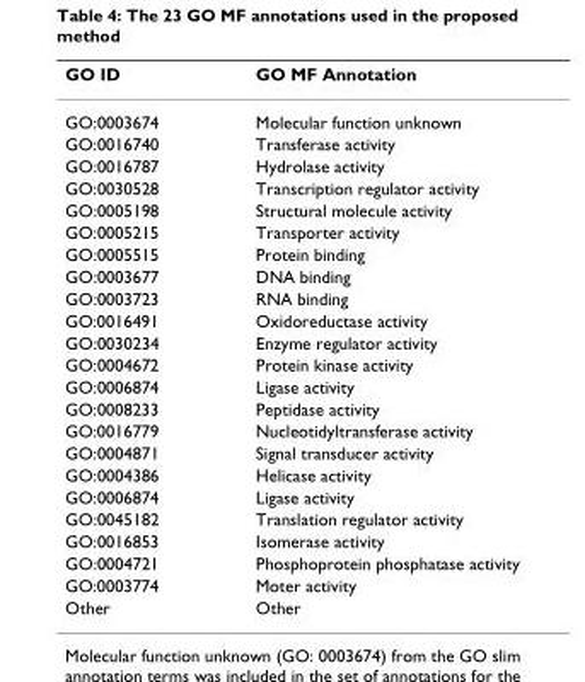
<table><thead><tr><td>GO ID</td><td>GO MF Annotation</td></tr></thead><tbody><tr><td>GO:0003674</td><td>Molecular function unknown</td></tr><tr><td>GO:0016740</td><td>Transferase activity</td></tr><tr><td>GO:0016787</td><td>Hydrolase activity</td></tr><tr><td>GO:0030528</td><td>Transcription regulator activity</td></tr><tr><td>GO:0005198</td><td>Structural molecule activity</td></tr><tr><td>GO:0005215</td><td>Transporter activity</td></tr><tr><td>GO:0005515</td><td>Protein binding</td></tr><tr><td>GO:0003677</td><td>DNA binding</td></tr><tr><td>GO:0003723</td><td>RNA binding</td></tr><tr><td>GO:0016491</td><td>Oxidoreductase activity</td></tr><tr><td>GO:0030234</td><td>Enzyme regulator activity</td></tr><tr><td>GO:0004672</td><td>Protein kinase activity</td></tr><tr><td>GO:0006874</td><td>Ligase activity</td></tr><tr><td>GO:0008233</td><td>Peptidase activity</td></tr><tr><td>GO:0016779</td><td>Nucleotidyltransferase activity</td></tr><tr><td>GO:0004871</td><td>Signal transducer activity</td></tr><tr><td>GO:0004386</td><td>Helicase activity</td></tr><tr><td>GO:0006874</td><td>Ligase activity</td></tr><tr><td>GO:0045182</td><td>Translation regulator activity</td></tr><tr><td>GO:0016853</td><td>Isomerase activity</td></tr><tr><td>GO:0004721</td><td>Phosphoprotein phosphatase activity</td></tr><tr><td>GO:0003774</td><td>Moter activity</td></tr><tr><td>Other</td><td>Other</td></tr></tbody></table>